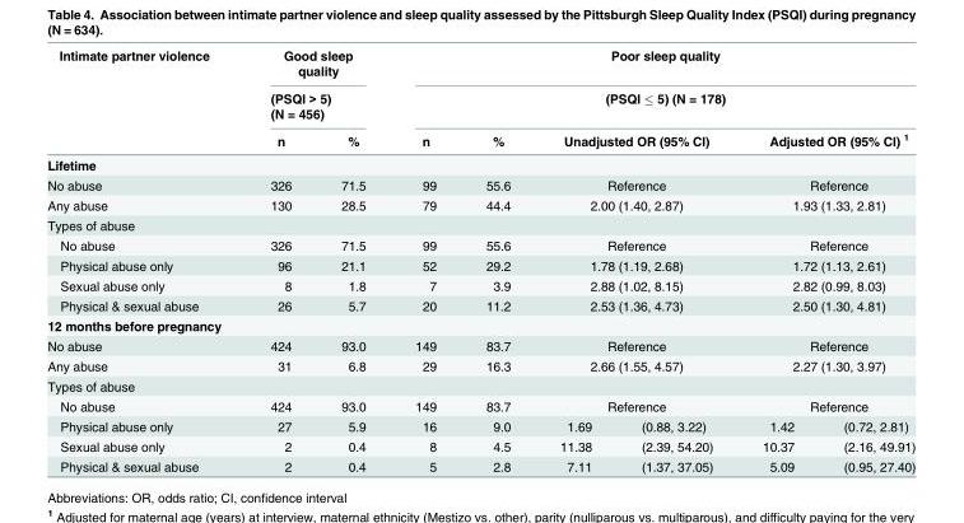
<table><thead><tr><td rowspan="3">Intimate partner violence</td><td rowspan="2" colspan="2">Good sleep quality (PSQI &gt; 5) (N = 456)</td><td rowspan="2" colspan="6">Poor sleep quality (PSQI ≤ 5) (N = 178)</td></tr><tr></tr><tr><td>n</td><td>%</td><td>n</td><td>%</td><td colspan="2">Unadjusted OR (95% CI)</td><td colspan="2">Adjusted OR (95% CI) <sup>1</sup></td></tr></thead><tbody><tr><td colspan="9">Lifetime</td></tr><tr><td>No abuse</td><td>326</td><td>71.5</td><td>99</td><td>55.6</td><td colspan="2">Reference</td><td colspan="2">Reference</td></tr><tr><td>Any abuse</td><td>130</td><td>28.5</td><td>79</td><td>44.4</td><td colspan="2">2.00 (1.40, 2.87)</td><td colspan="2">1.93 (1.33, 2.81)</td></tr><tr><td colspan="9">Types of abuse</td></tr><tr><td>No abuse</td><td>326</td><td>71.5</td><td>99</td><td>55.6</td><td colspan="2">Reference</td><td colspan="2">Reference</td></tr><tr><td>Physical abuse only</td><td>96</td><td>21.1</td><td>52</td><td>29.2</td><td colspan="2">1.78 (1.19, 2.68)</td><td colspan="2">1.72 (1.13, 2.61)</td></tr><tr><td>Sexual abuse only</td><td>8</td><td>1.8</td><td>7</td><td>3.9</td><td colspan="2">2.88 (1.02, 8.15)</td><td colspan="2">2.82 (0.99, 8.03)</td></tr><tr><td>Physical &amp; sexual abuse</td><td>26</td><td>5.7</td><td>20</td><td>11.2</td><td colspan="2">2.53 (1.36, 4.73)</td><td colspan="2">2.50 (1.30, 4.81)</td></tr><tr><td colspan="9">12 months before pregnancy</td></tr><tr><td>No abuse</td><td>424</td><td>93.0</td><td>149</td><td>83.7</td><td colspan="2">Reference</td><td colspan="2">Reference</td></tr><tr><td>Any abuse</td><td>31</td><td>6.8</td><td>29</td><td>16.3</td><td colspan="2">2.66 (1.55, 4.57)</td><td colspan="2">2.27 (1.30, 3.97)</td></tr><tr><td colspan="9">Types of abuse</td></tr><tr><td>No abuse</td><td>424</td><td>93.0</td><td>149</td><td>83.7</td><td colspan="2">Reference</td><td colspan="2">Reference</td></tr><tr><td>Physical abuse only</td><td>27</td><td>5.9</td><td>16</td><td>9.0</td><td>1.69</td><td>(0.88, 3.22)</td><td>1.42</td><td>(0.72, 2.81)</td></tr><tr><td>Sexual abuse only</td><td>2</td><td>0.4</td><td>8</td><td>4.5</td><td>11.38</td><td>(2.39, 54.20)</td><td>10.37</td><td>(2.16, 49.91)</td></tr><tr><td>Physical &amp; sexual abuse</td><td>2</td><td>0.4</td><td>5</td><td>2.8</td><td>7.11</td><td>(1.37, 37.05)</td><td>5.09</td><td>(0.95, 27.40)</td></tr></tbody></table>